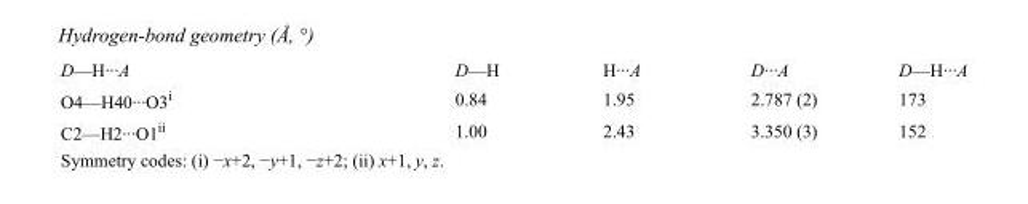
<table><tbody><tr><td>D—H···A</td><td>D—H</td><td>H···A</td><td>D···A</td><td>D—H···A</td></tr><tr><td>O4—H40···O3<sup>i</sup></td><td>0.84</td><td>1.95</td><td>2.787 (2)</td><td>173</td></tr><tr><td>C2—H2···O1<sup>ii</sup></td><td>1.00</td><td>2.43</td><td>3.350 (3)</td><td>152</td></tr></tbody></table>